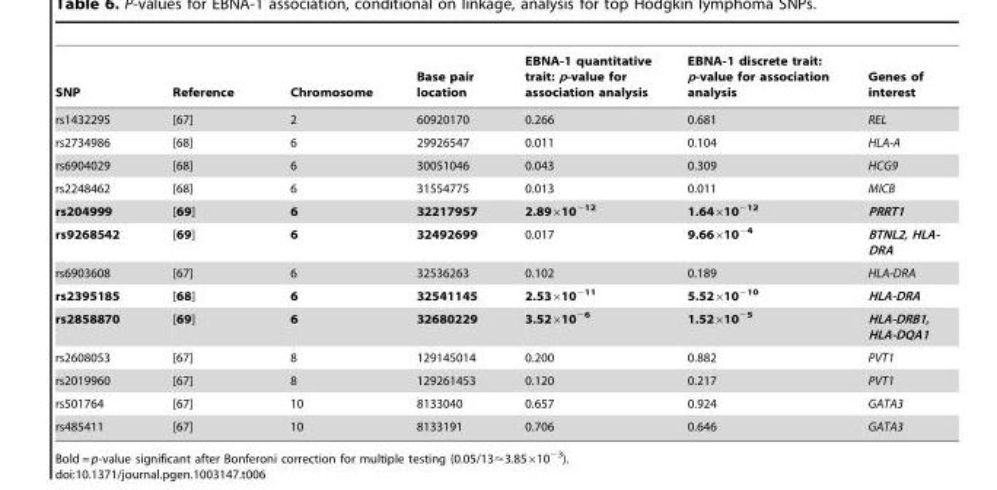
<table><thead><tr><td>SNP</td><td>Reference</td><td>Chromosome</td><td>Base pair location</td><td>EBNA-1 quantitative trait: p-value for association analysis</td><td>EBNA-1 discrete trait: p-value for association analysis</td><td>Genes of interest</td></tr></thead><tbody><tr><td>rs1432295</td><td>[67]</td><td>2</td><td>60920170</td><td>0.266</td><td>0.681</td><td>REL</td></tr><tr><td>rs2734986</td><td>[68]</td><td>6</td><td>29926547</td><td>0.011</td><td>0.104</td><td>HLA-A</td></tr><tr><td>rs6904029</td><td>[68]</td><td>6</td><td>30051046</td><td>0.043</td><td>0.309</td><td>HCG9</td></tr><tr><td>rs2248462</td><td>[68]</td><td>6</td><td>31554775</td><td>0.013</td><td>0.011</td><td>MICB</td></tr><tr><td>rs204999</td><td>[69]</td><td>6</td><td>32217957</td><td>2.89×10<sup>−12</sup></td><td>1.64×10<sup>−12</sup></td><td>PRRT1</td></tr><tr><td>rs9268542</td><td>[69]</td><td>6</td><td>32492699</td><td>0.017</td><td>9.66×10<sup>−4</sup></td><td>BTNL2, HLA- DRA</td></tr><tr><td>rs6903608</td><td>[67]</td><td>6</td><td>32536263</td><td>0.102</td><td>0.189</td><td>HLA-DRA</td></tr><tr><td>rs2395185</td><td>[68]</td><td>6</td><td>32541145</td><td>2.53×10<sup>−11</sup></td><td>5.52×10<sup>−10</sup></td><td>HLA-DRA</td></tr><tr><td>rs2858870</td><td>[69]</td><td>6</td><td>32680229</td><td>3.52×10<sup>−6</sup></td><td>1.52×10<sup>−5</sup></td><td>HLA-DRB1, HLA-DQA1</td></tr><tr><td>rs2608053</td><td>[67]</td><td>8</td><td>129145014</td><td>0.200</td><td>0.882</td><td>PVT1</td></tr><tr><td>rs2019960</td><td>[67]</td><td>8</td><td>129261453</td><td>0.120</td><td>0.217</td><td>PVT1</td></tr><tr><td>rs501764</td><td>[67]</td><td>10</td><td>8133040</td><td>0.657</td><td>0.924</td><td>GATA3</td></tr><tr><td>rs485411</td><td>[67]</td><td>10</td><td>8133191</td><td>0.706</td><td>0.646</td><td>GATA3</td></tr></tbody></table>